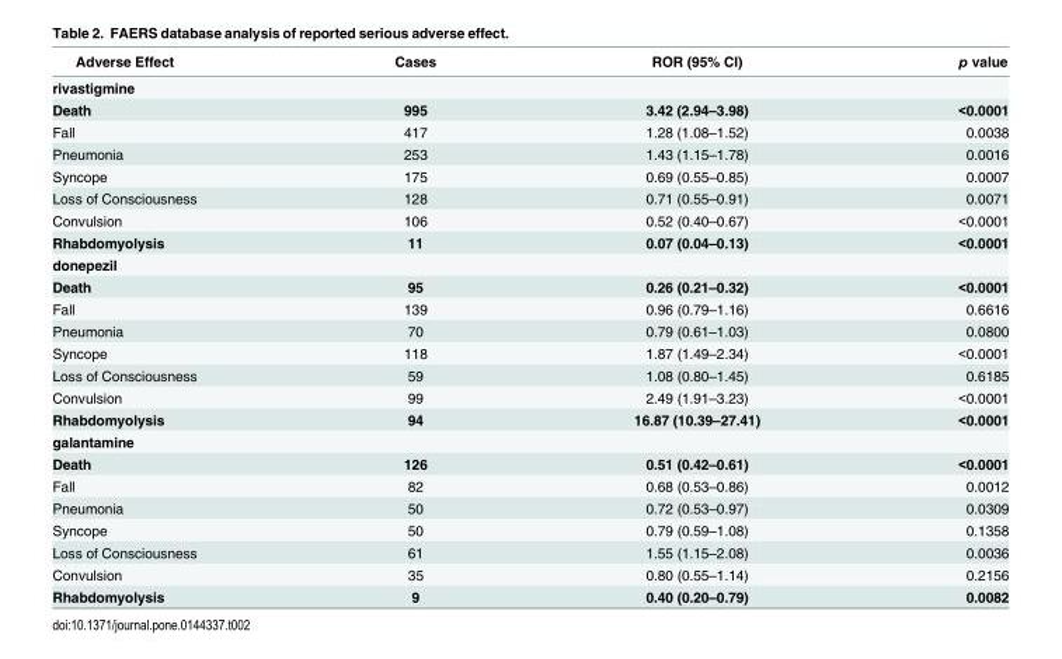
<table><thead><tr><td>Adverse Effect</td><td>Cases</td><td>ROR (95% CI)</td><td>p value</td></tr></thead><tbody><tr><td colspan="4">rivastigmine</td></tr><tr><td>Death</td><td>995</td><td>3.42 (2.94–3.98)</td><td>&lt;0.0001</td></tr><tr><td>Fall</td><td>417</td><td>1.28 (1.08–1.52)</td><td>0.0038</td></tr><tr><td>Pneumonia</td><td>253</td><td>1.43 (1.15–1.78)</td><td>0.0016</td></tr><tr><td>Syncope</td><td>175</td><td>0.69 (0.55–0.85)</td><td>0.0007</td></tr><tr><td>Loss of Consciousness</td><td>128</td><td>0.71 (0.55–0.91)</td><td>0.0071</td></tr><tr><td>Convulsion</td><td>106</td><td>0.52 (0.40–0.67)</td><td>&lt;0.0001</td></tr><tr><td>Rhabdomyolysis</td><td>11</td><td>0.07 (0.04–0.13)</td><td>&lt;0.0001</td></tr><tr><td colspan="4">donepezil</td></tr><tr><td>Death</td><td>95</td><td>0.26 (0.21–0.32)</td><td>&lt;0.0001</td></tr><tr><td>Fall</td><td>139</td><td>0.96 (0.79–1.16)</td><td>0.6616</td></tr><tr><td>Pneumonia</td><td>70</td><td>0.79 (0.61–1.03)</td><td>0.0800</td></tr><tr><td>Syncope</td><td>118</td><td>1.87 (1.49–2.34)</td><td>&lt;0.0001</td></tr><tr><td>Loss of Consciousness</td><td>59</td><td>1.08 (0.80–1.45)</td><td>0.6185</td></tr><tr><td>Convulsion</td><td>99</td><td>2.49 (1.91–3.23)</td><td>&lt;0.0001</td></tr><tr><td>Rhabdomyolysis</td><td>94</td><td>16.87 (10.39–27.41)</td><td>&lt;0.0001</td></tr><tr><td colspan="4">galantamine</td></tr><tr><td>Death</td><td>126</td><td>0.51 (0.42–0.61)</td><td>&lt;0.0001</td></tr><tr><td>Fall</td><td>82</td><td>0.68 (0.53–0.86)</td><td>0.0012</td></tr><tr><td>Pneumonia</td><td>50</td><td>0.72 (0.53–0.97)</td><td>0.0309</td></tr><tr><td>Syncope</td><td>50</td><td>0.79 (0.59–1.08)</td><td>0.1358</td></tr><tr><td>Loss of Consciousness</td><td>61</td><td>1.55 (1.15–2.08)</td><td>0.0036</td></tr><tr><td>Convulsion</td><td>35</td><td>0.80 (0.55–1.14)</td><td>0.2156</td></tr><tr><td>Rhabdomyolysis</td><td>9</td><td>0.40 (0.20–0.79)</td><td>0.0082</td></tr></tbody></table>